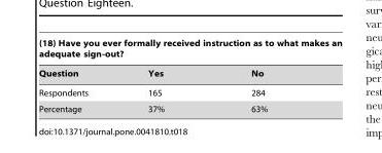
<table><thead><tr><td colspan="3">(18) Have you ever formally received instruction as to what makes an adequate sign-out?</td></tr><tr><td>Question</td><td>Yes</td><td>No</td></tr></thead><tbody><tr><td>Respondents</td><td>165</td><td>284</td></tr><tr><td>Percentage</td><td>37%</td><td>63%</td></tr></tbody></table>